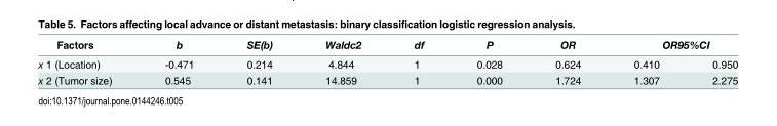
<table><thead><tr><td rowspan="2">Factors x 1 (Location)</td><td rowspan="2">b -0.471</td><td rowspan="2">SE(b) 0.214</td><td rowspan="2">Waldc2 4.844</td><td rowspan="2">df 1</td><td rowspan="2">P 0.028</td><td rowspan="2">OR 0.624</td><td colspan="2">OR95%CI</td></tr><tr><td>0.410</td><td>0.950</td></tr></thead><tbody><tr><td>x 2 (Tumor size)</td><td>0.545</td><td>0.141</td><td>14.859</td><td>1</td><td>0.000</td><td>1.724</td><td>1.307</td><td>2.275</td></tr></tbody></table>